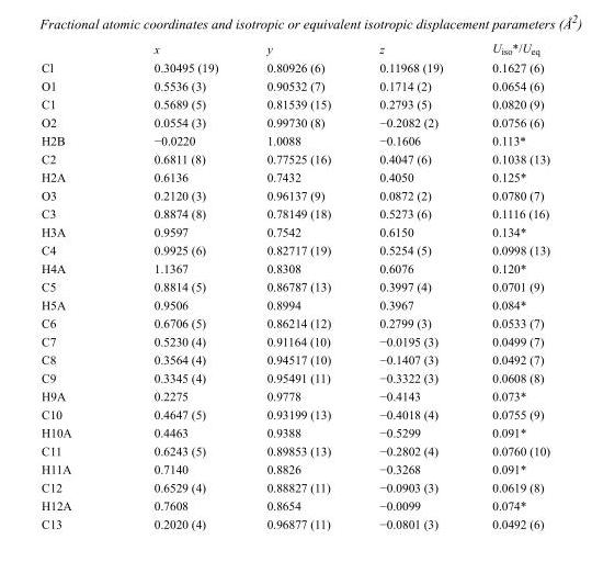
<table><thead><tr><td></td><td>x</td><td>y</td><td>z</td><td>U<sub>iso</sub>*/U<sub>eq</sub></td></tr></thead><tbody><tr><td>Cl</td><td>0.30495 (19)</td><td>0.80926 (6)</td><td>0.11968 (19)</td><td>0.1627 (6)</td></tr><tr><td>O1</td><td>0.5536 (3)</td><td>0.90532 (7)</td><td>0.1714 (2)</td><td>0.0654 (6)</td></tr><tr><td>C1</td><td>0.5689 (5)</td><td>0.81539 (15)</td><td>0.2793 (5)</td><td>0.0820 (9)</td></tr><tr><td>O2</td><td>0.0554 (3)</td><td>0.99730 (8)</td><td>−0.2082 (2)</td><td>0.0756 (6)</td></tr><tr><td>H2B</td><td>−0.0220</td><td>1.0088</td><td>−0.1606</td><td>0.113*</td></tr><tr><td>C2</td><td>0.6811 (8)</td><td>0.77525 (16)</td><td>0.4047 (6)</td><td>0.1038 (13)</td></tr><tr><td>H2A</td><td>0.6136</td><td>0.7432</td><td>0.4050</td><td>0.125*</td></tr><tr><td>O3</td><td>0.2120 (3)</td><td>0.96137 (9)</td><td>0.0872 (2)</td><td>0.0780 (7)</td></tr><tr><td>C3</td><td>0.8874 (8)</td><td>0.78149 (18)</td><td>0.5273 (6)</td><td>0.1116 (16)</td></tr><tr><td>H3A</td><td>0.9597</td><td>0.7542</td><td>0.6150</td><td>0.134*</td></tr><tr><td>C4</td><td>0.9925 (6)</td><td>0.82717 (19)</td><td>0.5254 (5)</td><td>0.0998 (13)</td></tr><tr><td>H4A</td><td>1.1367</td><td>0.8308</td><td>0.6076</td><td>0.120*</td></tr><tr><td>C5</td><td>0.8814 (5)</td><td>0.86787 (13)</td><td>0.3997 (4)</td><td>0.0701 (9)</td></tr><tr><td>H5A</td><td>0.9506</td><td>0.8994</td><td>0.3967</td><td>0.084*</td></tr><tr><td>C6</td><td>0.6706 (5)</td><td>0.86214 (12)</td><td>0.2799 (3)</td><td>0.0533 (7)</td></tr><tr><td>C7</td><td>0.5230 (4)</td><td>0.91164 (10)</td><td>−0.0195 (3)</td><td>0.0499 (7)</td></tr><tr><td>C8</td><td>0.3564 (4)</td><td>0.94517 (10)</td><td>−0.1407 (3)</td><td>0.0492 (7)</td></tr><tr><td>C9</td><td>0.3345 (4)</td><td>0.95491 (11)</td><td>−0.3322 (3)</td><td>0.0608 (8)</td></tr><tr><td>H9A</td><td>0.2275</td><td>0.9778</td><td>−0.4143</td><td>0.073*</td></tr><tr><td>C10</td><td>0.4647 (5)</td><td>0.93199 (13)</td><td>−0.4018 (4)</td><td>0.0755 (9)</td></tr><tr><td>H10A</td><td>0.4463</td><td>0.9388</td><td>−0.5299</td><td>0.091*</td></tr><tr><td>C11</td><td>0.6243 (5)</td><td>0.89853 (13)</td><td>−0.2802 (4)</td><td>0.0760 (10)</td></tr><tr><td>H11A</td><td>0.7140</td><td>0.8826</td><td>−0.3268</td><td>0.091*</td></tr><tr><td>C12</td><td>0.6529 (4)</td><td>0.88827 (11)</td><td>−0.0903 (3)</td><td>0.0619 (8)</td></tr><tr><td>H12A</td><td>0.7608</td><td>0.8654</td><td>−0.0099</td><td>0.074*</td></tr><tr><td>C13</td><td>0.2020 (4)</td><td>0.96877 (11)</td><td>−0.0801 (3)</td><td>0.0492 (6)</td></tr></tbody></table>